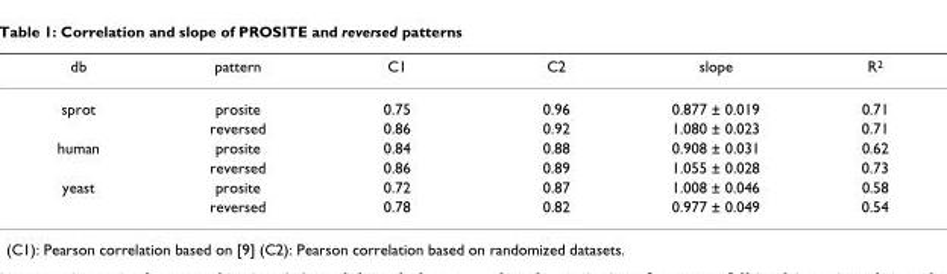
<table><thead><tr><td>db</td><td>pattern</td><td>C1</td><td>C2</td><td>slope</td><td>R<sup>2</sup></td></tr></thead><tbody><tr><td rowspan="2">sprot</td><td>prosite</td><td>0.75</td><td>0.96</td><td>0.877 ± 0.019</td><td>0.71</td></tr><tr><td>reversed</td><td>0.86</td><td>0.92</td><td>1.080 ± 0.023</td><td>0.71</td></tr><tr><td rowspan="2">human</td><td>prosite</td><td>0.84</td><td>0.88</td><td>0.908 ± 0.031</td><td>0.62</td></tr><tr><td>reversed</td><td>0.86</td><td>0.89</td><td>1.055 ± 0.028</td><td>0.73</td></tr><tr><td rowspan="2">yeast</td><td>prosite</td><td>0.72</td><td>0.87</td><td>1.008 ± 0.046</td><td>0.58</td></tr><tr><td>reversed</td><td>0.78</td><td>0.82</td><td>0.977 ± 0.049</td><td>0.54</td></tr></tbody></table>